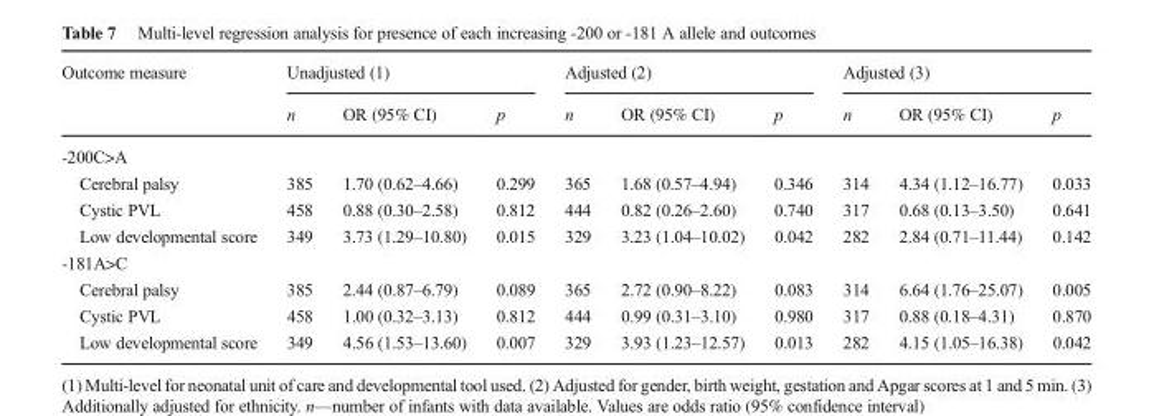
<table><thead><tr><td rowspan="2">Outcome measure</td><td colspan="3">Unadjusted (1)</td><td colspan="3">Adjusted (2)</td><td colspan="3">Adjusted (3)</td></tr><tr><td>n</td><td>OR (95% CI)</td><td>p</td><td>n</td><td>OR (95% CI)</td><td>p</td><td>n</td><td>OR (95% CI)</td><td>p</td></tr></thead><tbody><tr><td colspan="10">-200C&gt;A</td></tr><tr><td>Cerebral palsy</td><td>385</td><td>1.70 (0.62–4.66)</td><td>0.299</td><td>365</td><td>1.68 (0.57–4.94)</td><td>0.346</td><td>314</td><td>4.34 (1.12–16.77)</td><td>0.033</td></tr><tr><td>Cystic PVL</td><td>458</td><td>0.88 (0.30–2.58)</td><td>0.812</td><td>444</td><td>0.82 (0.26–2.60)</td><td>0.740</td><td>317</td><td>0.68 (0.13–3.50)</td><td>0.641</td></tr><tr><td>Low developmental score</td><td>349</td><td>3.73 (1.29–10.80)</td><td>0.015</td><td>329</td><td>3.23 (1.04–10.02)</td><td>0.042</td><td>282</td><td>2.84 (0.71–11.44)</td><td>0.142</td></tr><tr><td colspan="10">-181A&gt;C</td></tr><tr><td>Cerebral palsy</td><td>385</td><td>2.44 (0.87–6.79)</td><td>0.089</td><td>365</td><td>2.72 (0.90–8.22)</td><td>0.083</td><td>314</td><td>6.64 (1.76–25.07)</td><td>0.005</td></tr><tr><td>Cystic PVL</td><td>458</td><td>1.00 (0.32–3.13)</td><td>0.812</td><td>444</td><td>0.99 (0.31–3.10)</td><td>0.980</td><td>317</td><td>0.88 (0.18–4.31)</td><td>0.870</td></tr><tr><td>Low developmental score</td><td>349</td><td>4.56 (1.53–13.60)</td><td>0.007</td><td>329</td><td>3.93 (1.23–12.57)</td><td>0.013</td><td>282</td><td>4.15 (1.05–16.38)</td><td>0.042</td></tr></tbody></table>